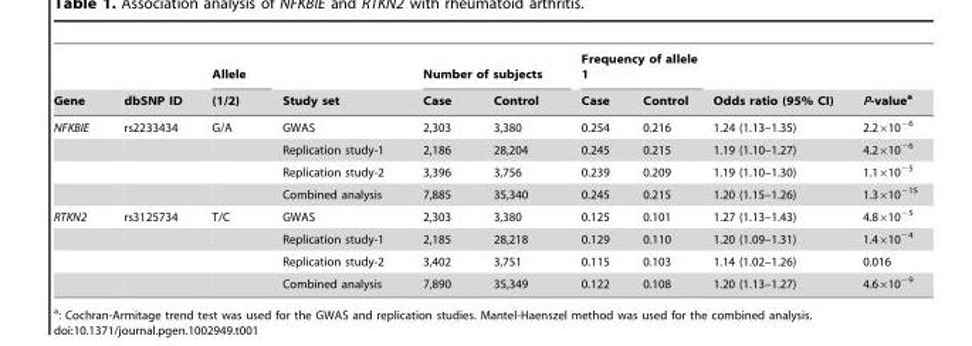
<table><thead><tr><td rowspan="2">Gene</td><td rowspan="2">dbSNP ID</td><td rowspan="2">Allele (1/2)</td><td rowspan="2">Study set</td><td colspan="2">Number of subjects</td><td colspan="2">Frequency of allele 1</td><td rowspan="2">Odds ratio (95% CI)</td><td rowspan="2">P-value<sup>a</sup></td></tr><tr><td>Case</td><td>Control</td><td>Case</td><td>Control</td></tr></thead><tbody><tr><td rowspan="4">NFKBIE</td><td>rs2233434</td><td>G/A</td><td>GWAS</td><td>2,303</td><td>3,380</td><td>0.254</td><td>0.216</td><td>1.24 (1.13–1.35)</td><td>2.2×10<sup>−6</sup></td></tr><tr><td></td><td></td><td>Replication study-1</td><td>2,186</td><td>28,204</td><td>0.245</td><td>0.215</td><td>1.19 (1.10–1.27)</td><td>4.2×10<sup>−6</sup></td></tr><tr><td></td><td></td><td>Replication study-2</td><td>3,396</td><td>3,756</td><td>0.239</td><td>0.209</td><td>1.19 (1.10–1.30)</td><td>1.1×10<sup>−5</sup></td></tr><tr><td></td><td></td><td>Combined analysis</td><td>7,885</td><td>35,340</td><td>0.245</td><td>0.215</td><td>1.20 (1.15–1.26)</td><td>1.3×10<sup>−15</sup></td></tr><tr><td rowspan="4">RTKN2</td><td>rs3125734</td><td>T/C</td><td>GWAS</td><td>2,303</td><td>3,380</td><td>0.125</td><td>0.101</td><td>1.27 (1.13–1.43)</td><td>4.8×10<sup>−5</sup></td></tr><tr><td></td><td></td><td>Replication study-1</td><td>2,185</td><td>28,218</td><td>0.129</td><td>0.110</td><td>1.20 (1.09–1.31)</td><td>1.4×10<sup>−4</sup></td></tr><tr><td></td><td></td><td>Replication study-2</td><td>3,402</td><td>3,751</td><td>0.115</td><td>0.103</td><td>1.14 (1.02–1.26)</td><td>0.016</td></tr><tr><td></td><td></td><td>Combined analysis</td><td>7,890</td><td>35,349</td><td>0.122</td><td>0.108</td><td>1.20 (1.13–1.27)</td><td>4.6×10<sup>−9</sup></td></tr></tbody></table>